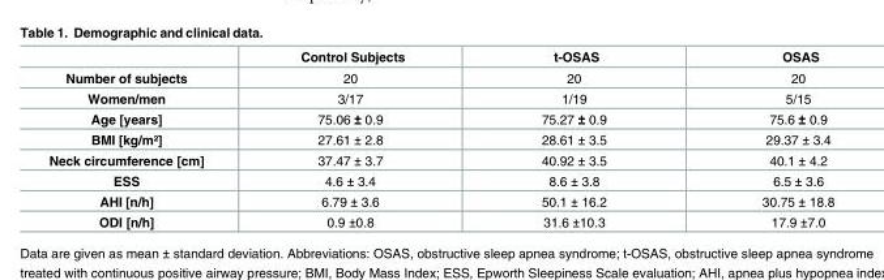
<table><thead><tr><td></td><td>Control Subjects</td><td>t-OSAS</td><td>OSAS</td></tr></thead><tbody><tr><td>Number of subjects</td><td>20</td><td>20</td><td>20</td></tr><tr><td>Women/men</td><td>3/17</td><td>1/19</td><td>5/15</td></tr><tr><td>Age [years]</td><td>75.06 ± 0.9</td><td>75.27 ± 0.9</td><td>75.6 ± 0.9</td></tr><tr><td>BMI [kg/m²]</td><td>27.61 ± 2.8</td><td>28.61 ± 3.5</td><td>29.37 ± 3.4</td></tr><tr><td>Neck circumference [cm]</td><td>37.47 ± 3.7</td><td>40.92 ± 3.5</td><td>40.1 ± 4.2</td></tr><tr><td>ESS</td><td>4.6 ± 3.4</td><td>8.6 ± 3.8</td><td>6.5 ± 3.6</td></tr><tr><td>AHI [n/h]</td><td>6.79 ± 3.6</td><td>50.1 ± 16.2</td><td>30.75 ± 18.8</td></tr><tr><td>ODI [n/h]</td><td>0.9 ±0.8</td><td>31.6 ±10.3</td><td>17.9 ±7.0</td></tr></tbody></table>